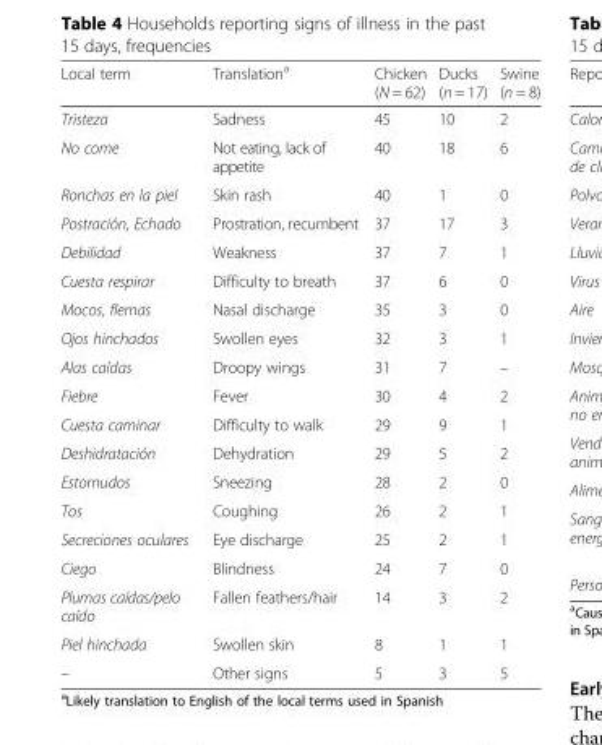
<table><thead><tr><td>Local term</td><td>Translation<sup>a</sup></td><td>Chicken (N = 62)</td><td>Ducks (n = 17)</td><td>Swine (n = 8)</td></tr></thead><tbody><tr><td>Tristeza</td><td>Sadness</td><td>45</td><td>10</td><td>2</td></tr><tr><td>No come</td><td>Not eating, lack of appetite</td><td>40</td><td>18</td><td>6</td></tr><tr><td>Ronchas en la piel</td><td>Skin rash</td><td>40</td><td>1</td><td>0</td></tr><tr><td>Postración, Echado</td><td>Prostration, recumbent</td><td>37</td><td>17</td><td>3</td></tr><tr><td>Debilidad</td><td>Weakness</td><td>37</td><td>7</td><td>1</td></tr><tr><td>Cuesta respirar</td><td>Difficulty to breath</td><td>37</td><td>6</td><td>0</td></tr><tr><td>Mocos, flemas</td><td>Nasal discharge</td><td>35</td><td>3</td><td>0</td></tr><tr><td>Ojos hinchados</td><td>Swollen eyes</td><td>32</td><td>3</td><td>1</td></tr><tr><td>Alas caídas</td><td>Droopy wings</td><td>31</td><td>7</td><td>–</td></tr><tr><td>Fiebre</td><td>Fever</td><td>30</td><td>4</td><td>2</td></tr><tr><td>Cuesta caminar</td><td>Difficulty to walk</td><td>29</td><td>9</td><td>1</td></tr><tr><td>Deshidratación</td><td>Dehydration</td><td>29</td><td>5</td><td>2</td></tr><tr><td>Estornudos</td><td>Sneezing</td><td>28</td><td>2</td><td>0</td></tr><tr><td>Tos</td><td>Coughing</td><td>26</td><td>2</td><td>1</td></tr><tr><td>Secreciones oculares</td><td>Eye discharge</td><td>25</td><td>2</td><td>1</td></tr><tr><td>Ciego</td><td>Blindness</td><td>24</td><td>7</td><td>0</td></tr><tr><td>Plumas caídas/pelo caído</td><td>Fallen feathers/hair</td><td>14</td><td>3</td><td>2</td></tr><tr><td>Piel hinchada</td><td>Swollen skin</td><td>8</td><td>1</td><td>1</td></tr><tr><td>–</td><td>Other signs</td><td>5</td><td>3</td><td>5</td></tr></tbody></table>